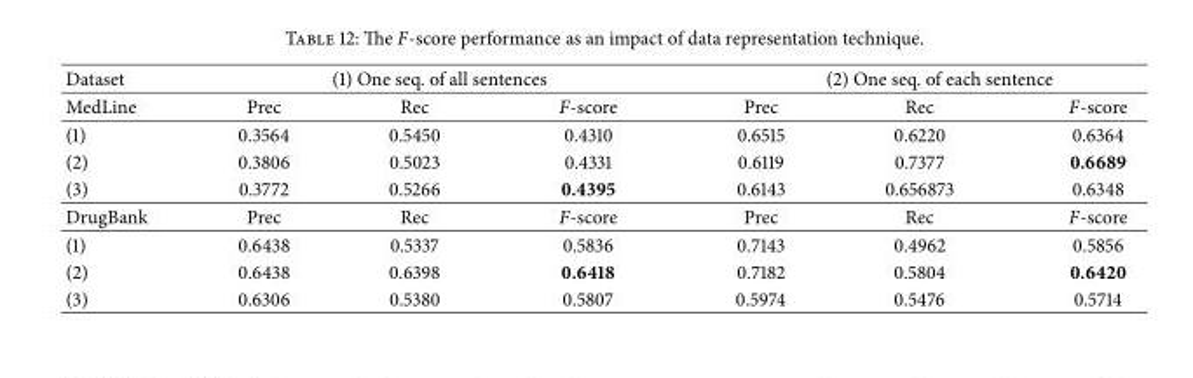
<table><thead><tr><td rowspan="2">Dataset MedLine</td><td colspan="3">(1) One seq. of all sentences</td><td colspan="3">(2) One seq. of each sentence</td></tr><tr><td>Prec</td><td>Rec</td><td>F-score</td><td>Prec</td><td>Rec</td><td>F-score</td></tr></thead><tbody><tr><td>(1)</td><td>0.3564</td><td>0.5450</td><td>0.4310</td><td>0.6515</td><td>0.6220</td><td>0.6364</td></tr><tr><td>(2)</td><td>0.3806</td><td>0.5023</td><td>0.4331</td><td>0.6119</td><td>0.7377</td><td>0.6689</td></tr><tr><td>(3)</td><td>0.3772</td><td>0.5266</td><td>0.4395</td><td>0.6143</td><td>0.656873</td><td>0.6348</td></tr><tr><td>DrugBank</td><td>Prec</td><td>Rec</td><td>F-score</td><td>Prec</td><td>Rec</td><td>F-score</td></tr><tr><td>(1)</td><td>0.6438</td><td>0.5337</td><td>0.5836</td><td>0.7143</td><td>0.4962</td><td>0.5856</td></tr><tr><td>(2)</td><td>0.6438</td><td>0.6398</td><td>0.6418</td><td>0.7182</td><td>0.5804</td><td>0.6420</td></tr><tr><td>(3)</td><td>0.6306</td><td>0.5380</td><td>0.5807</td><td>0.5974</td><td>0.5476</td><td>0.5714</td></tr></tbody></table>